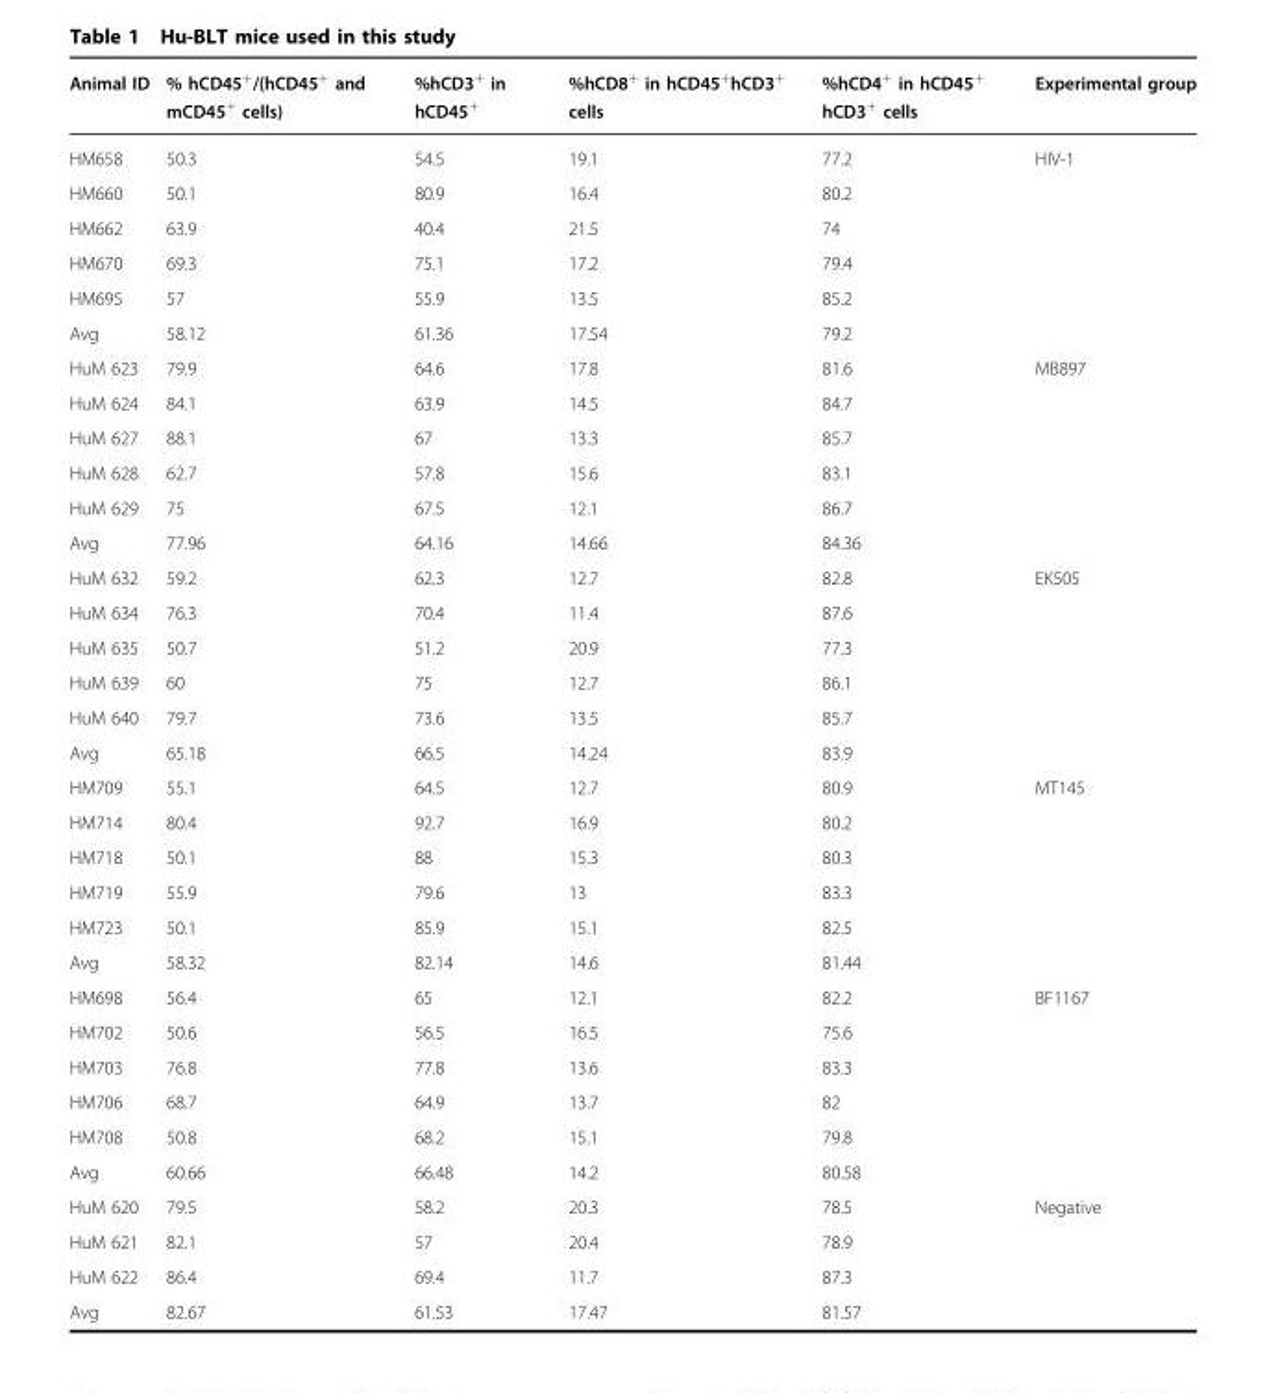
<table><thead><tr><td>Animal ID</td><td>% hCD45<sup>+</sup>/(hCD45<sup>+</sup> and mCD45<sup>+</sup> cells)</td><td>%hCD3<sup>+</sup> in hCD45<sup>+</sup></td><td>%hCD8<sup>+</sup> in hCD45<sup>+</sup>hCD3<sup>+</sup> cells</td><td>%hCD4<sup>+</sup> in hCD45<sup>+</sup> hCD3<sup>+</sup> cells</td><td>Experimental group</td></tr></thead><tbody><tr><td>HM658</td><td>50.3</td><td>54.5</td><td>19.1</td><td>77.2</td><td rowspan="6">HIV-1</td></tr><tr><td>HM660</td><td>50.1</td><td>80.9</td><td>16.4</td><td>80.2</td></tr><tr><td>HM662</td><td>63.9</td><td>40.4</td><td>21.5</td><td>74</td></tr><tr><td>HM670</td><td>69.3</td><td>75.1</td><td>17.2</td><td>79.4</td></tr><tr><td>HM695</td><td>57</td><td>55.9</td><td>13.5</td><td>85.2</td></tr><tr><td>Avg</td><td>58.12</td><td>61.36</td><td>17.54</td><td>79.2</td></tr><tr><td>HuM 623</td><td>79.9</td><td>64.6</td><td>17.8</td><td>81.6</td><td rowspan="6">MB897</td></tr><tr><td>HuM 624</td><td>84.1</td><td>63.9</td><td>14.5</td><td>84.7</td></tr><tr><td>HuM 627</td><td>88.1</td><td>67</td><td>13.3</td><td>85.7</td></tr><tr><td>HuM 628</td><td>62.7</td><td>57.8</td><td>15.6</td><td>83.1</td></tr><tr><td>HuM 629</td><td>75</td><td>67.5</td><td>12.1</td><td>86.7</td></tr><tr><td>Avg</td><td>77.96</td><td>64.16</td><td>14.66</td><td>84.36</td></tr><tr><td>HuM 632</td><td>59.2</td><td>62.3</td><td>12.7</td><td>82.8</td><td rowspan="6">EK505</td></tr><tr><td>HuM 634</td><td>76.3</td><td>70.4</td><td>11.4</td><td>87.6</td></tr><tr><td>HuM 635</td><td>50.7</td><td>51.2</td><td>20.9</td><td>77.3</td></tr><tr><td>HuM 639</td><td>60</td><td>75</td><td>12.7</td><td>86.1</td></tr><tr><td>HuM 640</td><td>79.7</td><td>73.6</td><td>13.5</td><td>85.7</td></tr><tr><td>Avg</td><td>65.18</td><td>66.5</td><td>14.24</td><td>83.9</td></tr><tr><td>HM709</td><td>55.1</td><td>64.5</td><td>12.7</td><td>80.9</td><td rowspan="6">MT145</td></tr><tr><td>HM714</td><td>80.4</td><td>92.7</td><td>16.9</td><td>80.2</td></tr><tr><td>HM718</td><td>50.1</td><td>88</td><td>15.3</td><td>80.3</td></tr><tr><td>HM719</td><td>55.9</td><td>79.6</td><td>13</td><td>83.3</td></tr><tr><td>HM723</td><td>50.1</td><td>85.9</td><td>15.1</td><td>82.5</td></tr><tr><td>Avg</td><td>58.32</td><td>82.14</td><td>14.6</td><td>81.44</td></tr><tr><td>HM698</td><td>56.4</td><td>65</td><td>12.1</td><td>82.2</td><td rowspan="6">BF1167</td></tr><tr><td>HM702</td><td>50.6</td><td>56.5</td><td>16.5</td><td>75.6</td></tr><tr><td>HM703</td><td>76.8</td><td>77.8</td><td>13.6</td><td>83.3</td></tr><tr><td>HM706</td><td>68.7</td><td>64.9</td><td>13.7</td><td>82</td></tr><tr><td>HM708</td><td>50.8</td><td>68.2</td><td>15.1</td><td>79.8</td></tr><tr><td>Avg</td><td>60.66</td><td>66.48</td><td>14.2</td><td>80.58</td></tr><tr><td>HuM 620</td><td>79.5</td><td>58.2</td><td>20.3</td><td>78.5</td><td rowspan="4">Negative</td></tr><tr><td>HuM 621</td><td>82.1</td><td>57</td><td>20.4</td><td>78.9</td></tr><tr><td>HuM 622</td><td>86.4</td><td>69.4</td><td>11.7</td><td>87.3</td></tr><tr><td>Avg</td><td>82.67</td><td>61.53</td><td>17.47</td><td>81.57</td></tr></tbody></table>